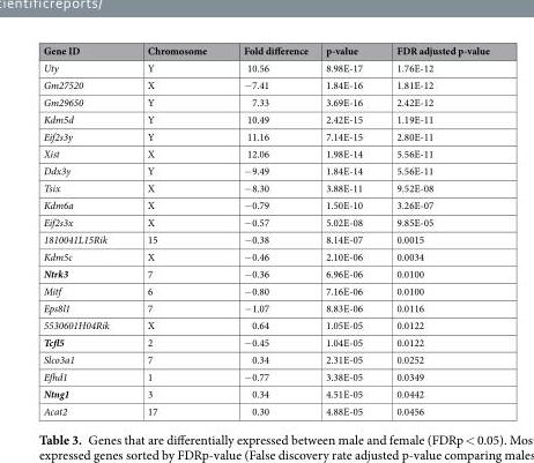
<table><thead><tr><td>Gene ID</td><td>Chromosome</td><td>Fold difference</td><td>p-value</td><td>FDR adjusted p-value</td></tr></thead><tbody><tr><td>Uty</td><td>Y</td><td>10.56</td><td>8.98E-17</td><td>1.76E-12</td></tr><tr><td>Gm27520</td><td>X</td><td>−7.41</td><td>1.84E-16</td><td>1.81E-12</td></tr><tr><td>Gm29650</td><td>Y</td><td>7.33</td><td>3.69E-16</td><td>2.42E-12</td></tr><tr><td>Kdm5d</td><td>Y</td><td>10.49</td><td>2.42E-15</td><td>1.19E-11</td></tr><tr><td>Eif2s3y</td><td>Y</td><td>11.16</td><td>7.14E-15</td><td>2.80E-11</td></tr><tr><td>Xist</td><td>X</td><td>12.06</td><td>1.98E-14</td><td>5.56E-11</td></tr><tr><td>Ddx3y</td><td>Y</td><td>−9.49</td><td>1.84E-14</td><td>5.56E-11</td></tr><tr><td>Tsix</td><td>X</td><td>−8.30</td><td>3.88E-11</td><td>9.52E-08</td></tr><tr><td>Kdm6a</td><td>X</td><td>−0.79</td><td>1.50E-10</td><td>3.26E-07</td></tr><tr><td>Eif2s3x</td><td>X</td><td>−0.57</td><td>5.02E-08</td><td>9.85E-05</td></tr><tr><td>1810041L15Rik</td><td>15</td><td>−0.38</td><td>8.14E-07</td><td>0.0015</td></tr><tr><td>Kdm5c</td><td>X</td><td>−0.46</td><td>2.10E-06</td><td>0.0034</td></tr><tr><td>Ntrk3</td><td>7</td><td>−0.36</td><td>6.96E-06</td><td>0.0100</td></tr><tr><td>Mitf</td><td>6</td><td>−0.80</td><td>7.16E-06</td><td>0.0100</td></tr><tr><td>Eps8l1</td><td>7</td><td>−1.07</td><td>8.83E-06</td><td>0.0116</td></tr><tr><td>5530601H04Rik</td><td>X</td><td>0.64</td><td>1.05E-05</td><td>0.0122</td></tr><tr><td>Tcfl5</td><td>2</td><td>−0.45</td><td>1.04E-05</td><td>0.0122</td></tr><tr><td>Slco3a1</td><td>7</td><td>0.34</td><td>2.31E-05</td><td>0.0252</td></tr><tr><td>Efhd1</td><td>1</td><td>−0.77</td><td>3.38E-05</td><td>0.0349</td></tr><tr><td>Ntng1</td><td>3</td><td>0.34</td><td>4.51E-05</td><td>0.0442</td></tr><tr><td>Acat2</td><td>17</td><td>0.30</td><td>4.88E-05</td><td>0.0456</td></tr></tbody></table>